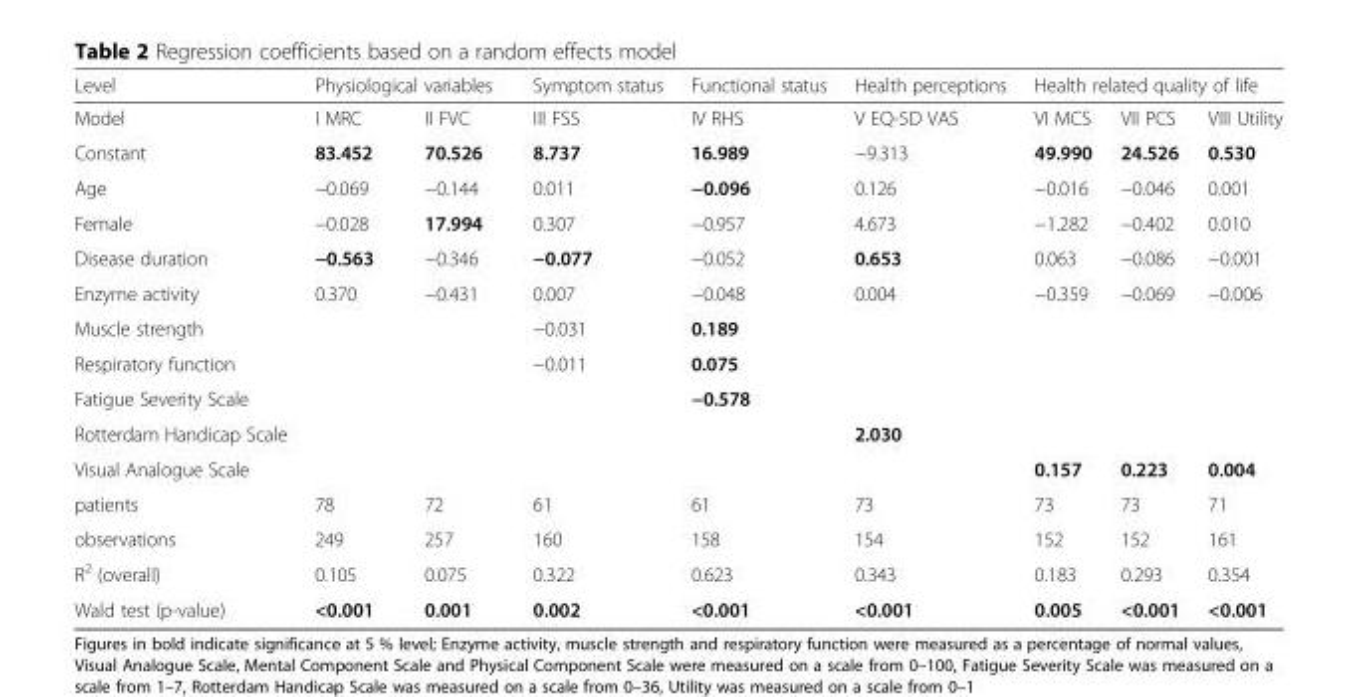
<table><thead><tr><td rowspan="2">Level Model</td><td colspan="2">Physiological variables</td><td rowspan="2">Symptom status III FSS</td><td rowspan="2">Functional status IV RHS</td><td rowspan="2">Health perceptions V EQ-5D VAS</td><td colspan="3">Health related quality of life</td></tr><tr><td>I MRC</td><td>II FVC</td><td>VI MCS</td><td>VII PCS</td><td>VIII Utility</td></tr></thead><tbody><tr><td>Constant</td><td>83.452</td><td>70.526</td><td>8.737</td><td>16.989</td><td>−9.313</td><td>49.990</td><td>24.526</td><td>0.530</td></tr><tr><td>Age</td><td>−0.069</td><td>−0.144</td><td>0.011</td><td>−0.096</td><td>0.126</td><td>−0.016</td><td>−0.046</td><td>0.001</td></tr><tr><td>Female</td><td>−0.028</td><td>17.994</td><td>0.307</td><td>−0.957</td><td>4.673</td><td>−1.282</td><td>−0.402</td><td>0.010</td></tr><tr><td>Disease duration</td><td>−0.563</td><td>−0.346</td><td>−0.077</td><td>−0.052</td><td>0.653</td><td>0.063</td><td>−0.086</td><td>−0.001</td></tr><tr><td>Enzyme activity</td><td>0.370</td><td>−0.431</td><td>0.007</td><td>−0.048</td><td>0.004</td><td>−0.359</td><td>−0.069</td><td>−0.006</td></tr><tr><td>Muscle strength</td><td></td><td></td><td>−0.031</td><td>0.189</td><td></td><td></td><td></td><td></td></tr><tr><td>Respiratory function</td><td></td><td></td><td>−0.011</td><td>0.075</td><td></td><td></td><td></td><td></td></tr><tr><td>Fatigue Severity Scale</td><td></td><td></td><td></td><td>−0.578</td><td></td><td></td><td></td><td></td></tr><tr><td>Rotterdam Handicap Scale</td><td></td><td></td><td></td><td></td><td>2.030</td><td></td><td></td><td></td></tr><tr><td>Visual Analogue Scale</td><td></td><td></td><td></td><td></td><td></td><td>0.157</td><td>0.223</td><td>0.004</td></tr><tr><td>patients</td><td>78</td><td>72</td><td>61</td><td>61</td><td>73</td><td>73</td><td>73</td><td>71</td></tr><tr><td>observations</td><td>249</td><td>257</td><td>160</td><td>158</td><td>154</td><td>152</td><td>152</td><td>161</td></tr><tr><td>R<sup>2</sup> (overall)</td><td>0.105</td><td>0.075</td><td>0.322</td><td>0.623</td><td>0.343</td><td>0.183</td><td>0.293</td><td>0.354</td></tr><tr><td>Wald test (p-value)</td><td>&lt;0.001</td><td>0.001</td><td>0.002</td><td>&lt;0.001</td><td>&lt;0.001</td><td>0.005</td><td>&lt;0.001</td><td>&lt;0.001</td></tr></tbody></table>